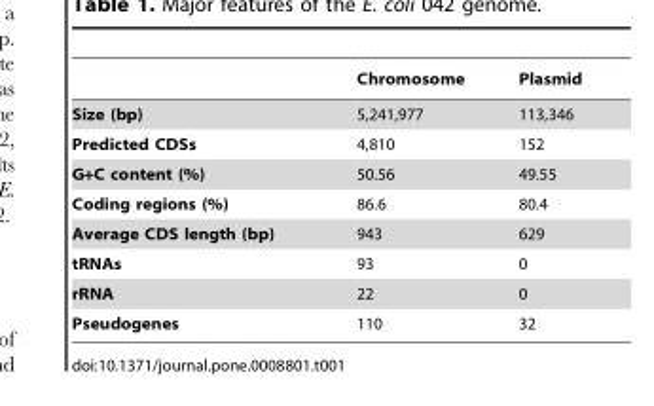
<table><thead><tr><td></td><td>Chromosome</td><td>Plasmid</td></tr></thead><tbody><tr><td>Size (bp)</td><td>5,241,977</td><td>113,346</td></tr><tr><td>Predicted CDSs</td><td>4,810</td><td>152</td></tr><tr><td>G+C content (%)</td><td>50.56</td><td>49.55</td></tr><tr><td>Coding regions (%)</td><td>86.6</td><td>80.4</td></tr><tr><td>Average CDS length (bp)</td><td>943</td><td>629</td></tr><tr><td>tRNAs</td><td>93</td><td>0</td></tr><tr><td>rRNA</td><td>22</td><td>0</td></tr><tr><td>Pseudogenes</td><td>110</td><td>32</td></tr></tbody></table>